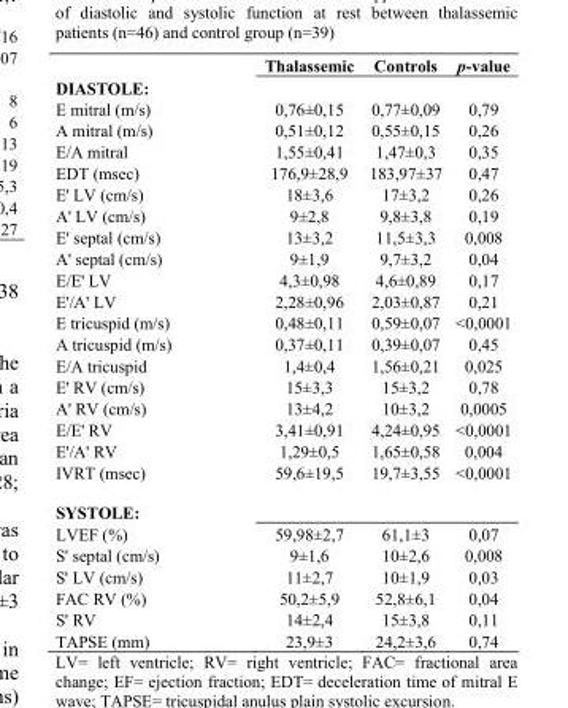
<table><thead><tr><td></td><td>Thalassemic</td><td>Controls</td><td>p-value</td></tr></thead><tbody><tr><td colspan="4">DIASTOLE:</td></tr><tr><td>E mitral (m/s)</td><td>0,76±0,15</td><td>0,77±0,09</td><td>0,79</td></tr><tr><td>A mitral (m/s)</td><td>0,51±0,12</td><td>0,55±0,15</td><td>0,26</td></tr><tr><td>E/A mitral</td><td>1,55±0,41</td><td>1,47±0,3</td><td>0,35</td></tr><tr><td>EDT (msec)</td><td>176,9±28,9</td><td>183,97±37</td><td>0,47</td></tr><tr><td>E&#x27; LV (cm/s)</td><td>18±3,6</td><td>17±3,2</td><td>0,26</td></tr><tr><td>A&#x27; LV (cm/s)</td><td>9±2,8</td><td>9,8±3,8</td><td>0,19</td></tr><tr><td>E&#x27; septal (cm/s)</td><td>13±3,2</td><td>11,5±3,3</td><td>0,008</td></tr><tr><td>A&#x27; septal (cm/s)</td><td>9±1,9</td><td>9,7±3,2</td><td>0,04</td></tr><tr><td>E/E&#x27; LV</td><td>4,3±0,98</td><td>4,6±0,89</td><td>0,17</td></tr><tr><td>E&#x27;/A&#x27; LV</td><td>2,28±0,96</td><td>2,03±0,87</td><td>0,21</td></tr><tr><td>E tricuspid (m/s)</td><td>0,48±0,11</td><td>0,59±0,07</td><td>&lt;0,0001</td></tr><tr><td>A tricuspid (m/s)</td><td>0,37±0,11</td><td>0,39±0,07</td><td>0,45</td></tr><tr><td>E/A tricuspid</td><td>1,4±0,4</td><td>1,56±0,21</td><td>0,025</td></tr><tr><td>E&#x27; RV (cm/s)</td><td>15±3,3</td><td>15±3,2</td><td>0,78</td></tr><tr><td>A&#x27; RV (cm/s)</td><td>13±4,2</td><td>10±3,2</td><td>0,0005</td></tr><tr><td>E/E&#x27; RV</td><td>3,41±0,91</td><td>4,24±0,95</td><td>&lt;0,0001</td></tr><tr><td>E&#x27;/A&#x27; RV</td><td>1,29±0,5</td><td>1,65±0,58</td><td>0,004</td></tr><tr><td>IVRT (msec)</td><td>59,6±19,5</td><td>19,7±3,55</td><td>&lt;0,0001</td></tr><tr><td colspan="4">SYSTOLE:</td></tr><tr><td>LVEF (%)</td><td>59,98±2,7</td><td>61,1±3</td><td>0,07</td></tr><tr><td>S&#x27; septal (cm/s)</td><td>9±1,6</td><td>10±2,6</td><td>0,008</td></tr><tr><td>S&#x27; LV (cm/s)</td><td>11±2,7</td><td>10±1,9</td><td>0,03</td></tr><tr><td>FAC RV (%)</td><td>50,2±5,9</td><td>52,8±6,1</td><td>0,04</td></tr><tr><td>S&#x27; RV</td><td>14±2,4</td><td>15±3,8</td><td>0,11</td></tr><tr><td>TAPSE (mm)</td><td>23,9±3</td><td>24,2±3,6</td><td>0,74</td></tr></tbody></table>